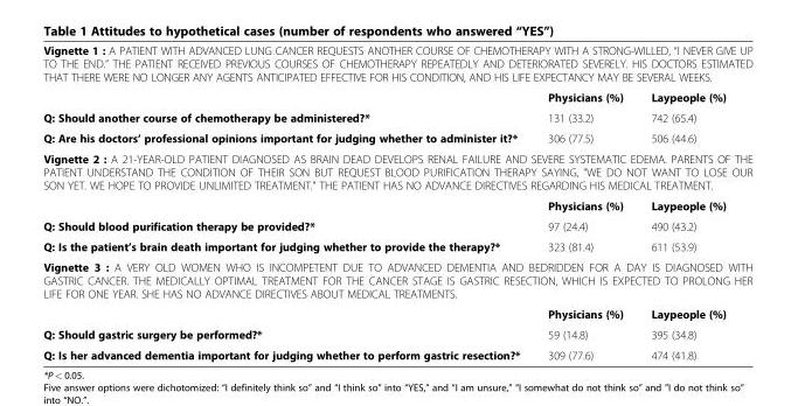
<table><tbody><tr><td colspan="3">Vignette 1 : A PATIENT WITH ADVANCED LUNG CANCER REQUESTS ANOTHER COURSE OF CHEMOTHERAPY WITH A STRONG-WILLED, “I NEVER GIVE UP TO THE END.” THE PATIENT RECEIVED PREVIOUS COURSES OF CHEMOTHERAPY REPEATEDLY AND DETERIORATED SEVERELY. HIS DOCTORS ESTIMATED THAT THERE WERE NO LONGER ANY AGENTS ANTICIPATED EFFECTIVE FOR HIS CONDITION, AND HIS LIFE EXPECTANCY MAY BE SEVERAL WEEKS.</td></tr><tr><td></td><td>Physicians (%)</td><td>Laypeople (%)</td></tr><tr><td>Q: Should another course of chemotherapy be administered?*</td><td>131 (33.2)</td><td>742 (65.4)</td></tr><tr><td>Q: Are his doctors’ professional opinions important for judging whether to administer it?*</td><td>306 (77.5)</td><td>506 (44.6)</td></tr><tr><td colspan="3">Vignette 2 : A 21-YEAR-OLD PATIENT DIAGNOSED AS BRAIN DEAD DEVELOPS RENAL FAILURE AND SEVERE SYSTEMATIC EDEMA. PARENTS OF THE PATIENT UNDERSTAND THE CONDITION OF THEIR SON BUT REQUEST BLOOD PURIFICATION THERAPY SAYING, &quot;WE DO NOT WANT TO LOSE OUR SON YET. WE HOPE TO PROVIDE UNLIMITED TREATMENT.&quot; THE PATIENT HAS NO ADVANCE DIRECTIVES REGARDING HIS MEDICAL TREATMENT.</td></tr><tr><td></td><td>Physicians (%)</td><td>Laypeople (%)</td></tr><tr><td>Q: Should blood purification therapy be provided?*</td><td>97 (24.4)</td><td>490 (43.2)</td></tr><tr><td>Q: Is the patient’s brain death important for judging whether to provide the therapy?*</td><td>323 (81.4)</td><td>611 (53.9)</td></tr><tr><td colspan="3">Vignette 3 : A VERY OLD WOMEN WHO IS INCOMPETENT DUE TO ADVANCED DEMENTIA AND BEDRIDDEN FOR A DAY IS DIAGNOSED WITH GASTRIC CANCER. THE MEDICALLY OPTIMAL TREATMENT FOR THE CANCER STAGE IS GASTRIC RESECTION, WHICH IS EXPECTED TO PROLONG HER LIFE FOR ONE YEAR. SHE HAS NO ADVANCE DIRECTIVES ABOUT MEDICAL TREATMENTS.</td></tr><tr><td></td><td>Physicians (%)</td><td>Laypeople (%)</td></tr><tr><td>Q: Should gastric surgery be performed?*</td><td>59 (14.8)</td><td>395 (34.8)</td></tr><tr><td>Q: Is her advanced dementia important for judging whether to perform gastric resection?*</td><td>309 (77.6)</td><td>474 (41.8)</td></tr></tbody></table>